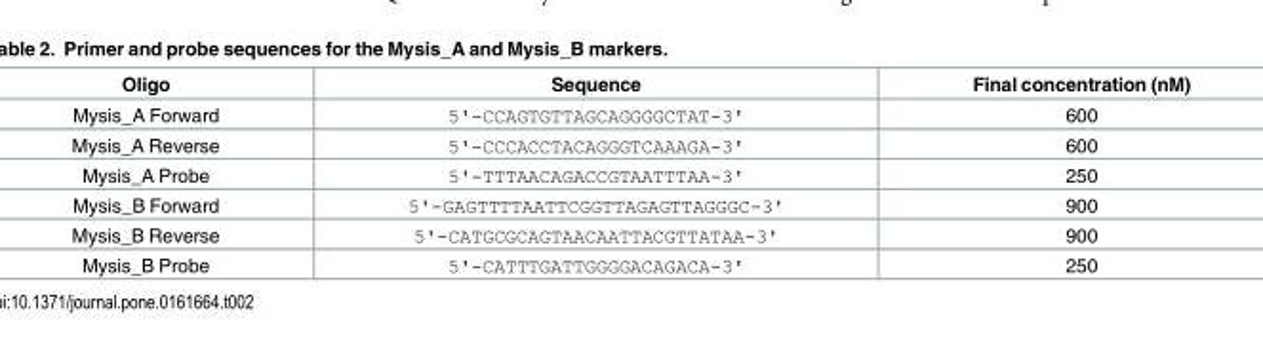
<table><thead><tr><td>Oligo</td><td>Sequence</td><td>Final concentration (nM)</td></tr></thead><tbody><tr><td>Mysis_A Forward</td><td>5&#x27;-CCAGTGTTAGCAGGGGCTAT-3&#x27;</td><td>600</td></tr><tr><td>Mysis_A Reverse</td><td>5&#x27;-CCCACCTACAGGGTCAAAGA-3&#x27;</td><td>600</td></tr><tr><td>Mysis_A Probe</td><td>5&#x27;-TTTAACAGACCGTAATTTAA-3&#x27;</td><td>250</td></tr><tr><td>Mysis_B Forward</td><td>5&#x27;-GAGTTTTAATTCGGTTAGAGTTAGGGC-3&#x27;</td><td>900</td></tr><tr><td>Mysis_B Reverse</td><td>5&#x27;-CATGCGCAGTAACAATTACGTTATAA-3&#x27;</td><td>900</td></tr><tr><td>Mysis_B Probe</td><td>5&#x27;-CATTTGATTGGGGACAGACA-3&#x27;</td><td>250</td></tr></tbody></table>